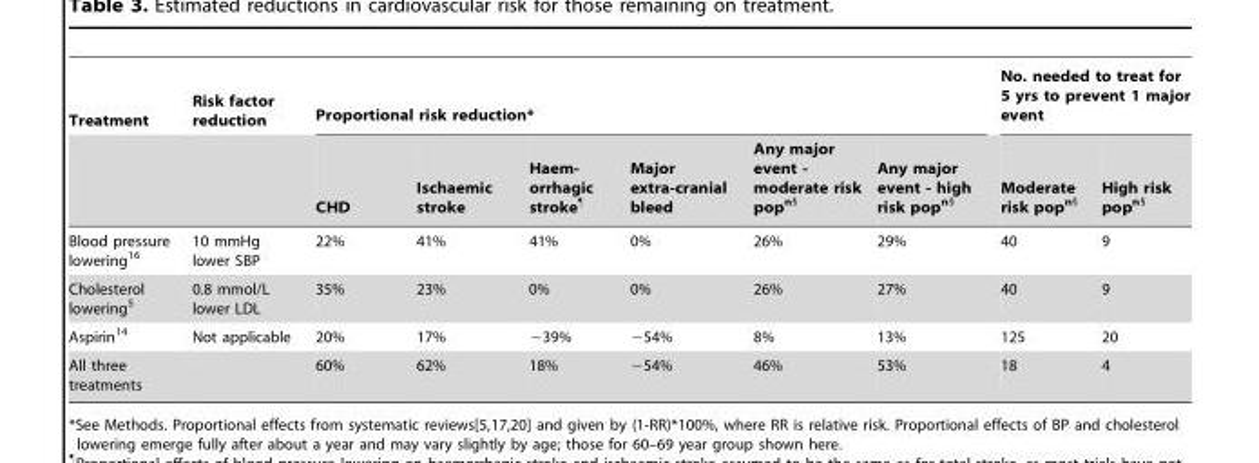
<table><thead><tr><td rowspan="2">Treatment</td><td rowspan="2">Risk factor reduction</td><td colspan="6">Proportional risk reduction*</td><td colspan="2">No. needed to treat for 5 yrs to prevent 1 major event</td></tr><tr><td>CHD</td><td>Ischaemic stroke</td><td>Haem- orrhagic stroke¶</td><td>Major extra-cranial bleed</td><td>Any major event - moderate risk pop<sup>n</sup>§</td><td>Any major event - high risk pop<sup>n</sup>§</td><td>Moderate risk pop<sup>n</sup>§</td><td>High risk pop<sup>n</sup>§</td></tr></thead><tbody><tr><td>Blood pressure lowering<sup>16</sup></td><td>10 mmHg lower SBP</td><td>22%</td><td>41%</td><td>41%</td><td>0%</td><td>26%</td><td>29%</td><td>40</td><td>9</td></tr><tr><td>Cholesterol lowering<sup>5</sup></td><td>0.8 mmol/L lower LDL</td><td>35%</td><td>23%</td><td>0%</td><td>0%</td><td>26%</td><td>27%</td><td>40</td><td>9</td></tr><tr><td>Aspirin<sup>14</sup></td><td>Not applicable</td><td>20%</td><td>17%</td><td>−39%</td><td>−54%</td><td>8%</td><td>13%</td><td>125</td><td>20</td></tr><tr><td>All three treatments</td><td></td><td>60%</td><td>62%</td><td>18%</td><td>−54%</td><td>46%</td><td>53%</td><td>18</td><td>4</td></tr></tbody></table>